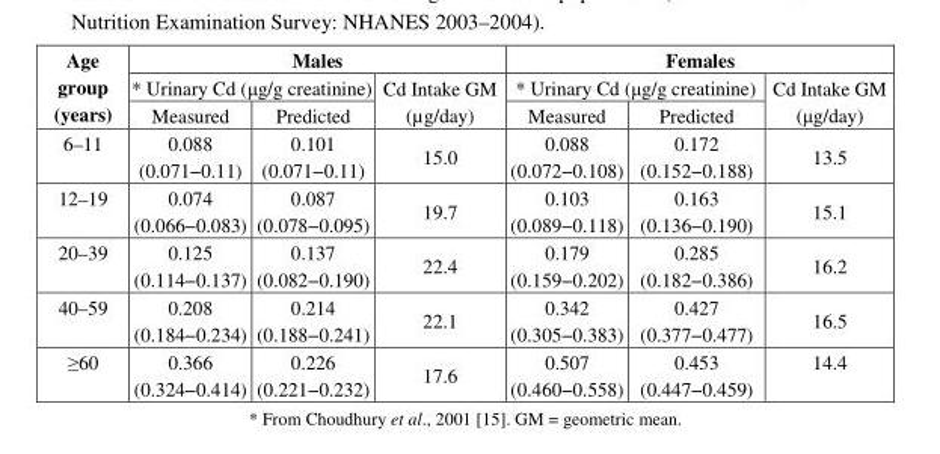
<table><thead><tr><td rowspan="3">Age group (years)</td><td colspan="3">Males</td><td colspan="3">Females</td></tr><tr><td colspan="2">* Urinary Cd (µg/g creatinine)</td><td rowspan="2">Cd Intake GM (µg/day)</td><td colspan="2">* Urinary Cd (µg/g creatinine)</td><td rowspan="2">Cd Intake GM (µg/day)</td></tr><tr><td>Measured</td><td>Predicted</td><td>Measured</td><td>Predicted</td></tr></thead><tbody><tr><td>6–11</td><td>0.088 (0.071−0.11)</td><td>0.101 (0.071−0.11)</td><td>15.0</td><td>0.088 (0.072−0.108)</td><td>0.172 (0.152−0.188)</td><td>13.5</td></tr><tr><td>12–19</td><td>0.074 (0.066−0.083)</td><td>0.087 (0.078−0.095)</td><td>19.7</td><td>0.103 (0.089−0.118)</td><td>0.163 (0.136−0.190)</td><td>15.1</td></tr><tr><td>20–39</td><td>0.125 (0.114−0.137)</td><td>0.137 (0.082−0.190)</td><td>22.4</td><td>0.179 (0.159−0.202)</td><td>0.285 (0.182−0.386)</td><td>16.2</td></tr><tr><td>40–59</td><td>0.208 (0.184−0.234)</td><td>0.214 (0.188−0.241)</td><td>22.1</td><td>0.342 (0.305−0.383)</td><td>0.427 (0.377−0.477)</td><td>16.5</td></tr><tr><td>≥60</td><td>0.366 (0.324−0.414)</td><td>0.226 (0.221−0.232)</td><td>17.6</td><td>0.507 (0.460−0.558)</td><td>0.453 (0.447−0.459)</td><td>14.4</td></tr></tbody></table>